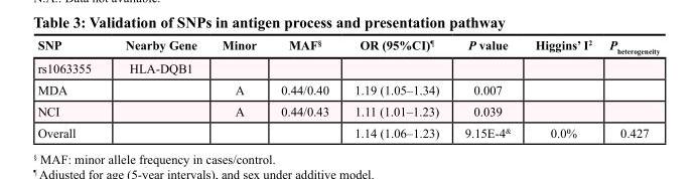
<table><thead><tr><td>SNP</td><td>Nearby Gene</td><td>Minor</td><td>MAF<sup>§</sup></td><td>OR (95%CI)<sup>¶</sup></td><td>P value</td><td>Higgins’ I<sup>2</sup></td><td>P<sub>heterogeneity</sub></td></tr></thead><tbody><tr><td>rs1063355</td><td>HLA-DQB1</td><td></td><td></td><td></td><td></td><td></td><td></td></tr><tr><td>MDA</td><td></td><td>A</td><td>0.44/0.40</td><td>1.19 (1.05–1.34)</td><td>0.007</td><td></td><td></td></tr><tr><td>NCI</td><td></td><td>A</td><td>0.44/0.43</td><td>1.11 (1.01–1.23)</td><td>0.039</td><td></td><td></td></tr><tr><td>Overall</td><td></td><td></td><td></td><td>1.14 (1.06–1.23)</td><td>9.15E-4<sup>&amp;</sup></td><td>0.0%</td><td>0.427</td></tr></tbody></table>